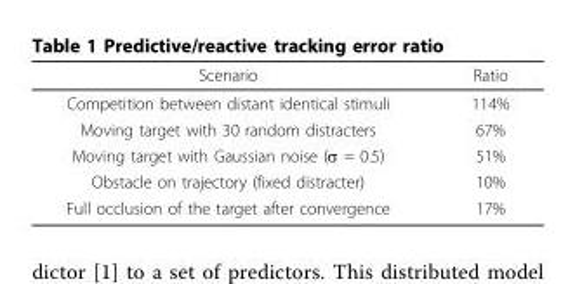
<table><thead><tr><td>Scenario</td><td>Ratio</td></tr></thead><tbody><tr><td>Competition between distant identical stimuli</td><td>114%</td></tr><tr><td>Moving target with 30 random distracters</td><td>67%</td></tr><tr><td>Moving target with Gaussian noise (σ = 0.5)</td><td>51%</td></tr><tr><td>Obstacle on trajectory (fixed distracter)</td><td>10%</td></tr><tr><td>Full occlusion of the target after convergence</td><td>17%</td></tr></tbody></table>